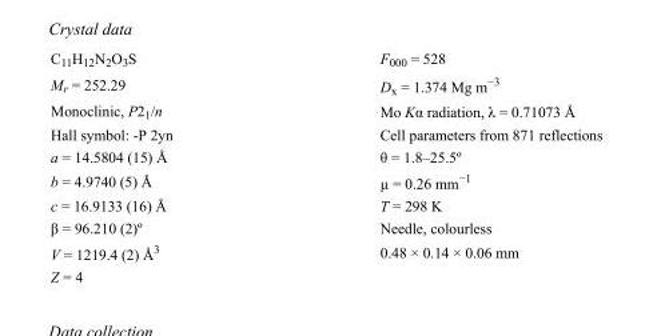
<table><tbody><tr><td>C<sub>11</sub>H<sub>12</sub>N<sub>2</sub>O<sub>3</sub>S</td><td>F000 = 528</td></tr><tr><td>M<sub>r</sub> = 252.29</td><td>D<sub>x</sub> = 1.374 Mg m<sup>−3</sup></td></tr><tr><td>Monoclinic, P2<sub>1</sub>/n</td><td>Mo Kα radiation, λ = 0.71073 Å</td></tr><tr><td>Hall symbol: -P 2yn</td><td>Cell parameters from 871 reflections</td></tr><tr><td>a = 14.5804 (15) Å</td><td>θ = 1.8–25.5º</td></tr><tr><td>b = 4.9740 (5) Å</td><td>µ = 0.26 mm<sup>−1</sup></td></tr><tr><td>c = 16.9133 (16) Å</td><td>T = 298 K</td></tr><tr><td>β = 96.210 (2)º</td><td>Needle, colourless</td></tr><tr><td>V = 1219.4 (2) Å<sup>3</sup></td><td>0.48 × 0.14 × 0.06 mm</td></tr><tr><td>Z = 4</td><td></td></tr></tbody></table>